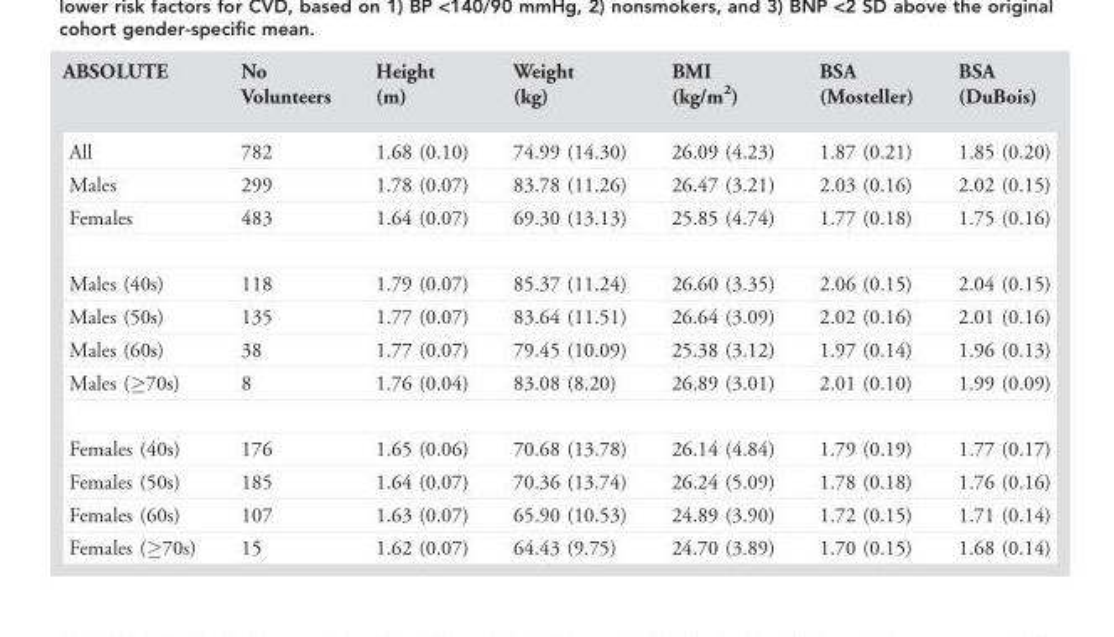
<table><thead><tr><td>ABSOLUTE</td><td>No Volunteers</td><td>Height (m)</td><td>Weight (kg)</td><td>BMI (kg/m<sup>2</sup>)</td><td>BSA (Mosteller)</td><td>BSA (DuBois)</td></tr></thead><tbody><tr><td>All</td><td>782</td><td>1.68 (0.10)</td><td>74.99 (14.30)</td><td>26.09 (4.23)</td><td>1.87 (0.21)</td><td>1.85 (0.20)</td></tr><tr><td>Males</td><td>299</td><td>1.78 (0.07)</td><td>83.78 (11.26)</td><td>26.47 (3.21)</td><td>2.03 (0.16)</td><td>2.02 (0.15)</td></tr><tr><td>Females</td><td>483</td><td>1.64 (0.07)</td><td>69.30 (13.13)</td><td>25.85 (4.74)</td><td>1.77 (0.18)</td><td>1.75 (0.16)</td></tr><tr><td>Males (40s)</td><td>118</td><td>1.79 (0.07)</td><td>85.37 (11.24)</td><td>26.60 (3.35)</td><td>2.06 (0.15)</td><td>2.04 (0.15)</td></tr><tr><td>Males (50s)</td><td>135</td><td>1.77 (0.07)</td><td>83.64 (11.51)</td><td>26.64 (3.09)</td><td>2.02 (0.16)</td><td>2.01 (0.16)</td></tr><tr><td>Males (60s)</td><td>38</td><td>1.77 (0.07)</td><td>79.45 (10.09)</td><td>25.38 (3.12)</td><td>1.97 (0.14)</td><td>1.96 (0.13)</td></tr><tr><td>Males (≥70s)</td><td>8</td><td>1.76 (0.04)</td><td>83.08 (8.20)</td><td>26.89 (3.01)</td><td>2.01 (0.10)</td><td>1.99 (0.09)</td></tr><tr><td>Females (40s)</td><td>176</td><td>1.65 (0.06)</td><td>70.68 (13.78)</td><td>26.14 (4.84)</td><td>1.79 (0.19)</td><td>1.77 (0.17)</td></tr><tr><td>Females (50s)</td><td>185</td><td>1.64 (0.07)</td><td>70.36 (13.74)</td><td>26.24 (5.09)</td><td>1.78 (0.18)</td><td>1.76 (0.16)</td></tr><tr><td>Females (60s)</td><td>107</td><td>1.63 (0.07)</td><td>65.90 (10.53)</td><td>24.89 (3.90)</td><td>1.72 (0.15)</td><td>1.71 (0.14)</td></tr><tr><td>Females (≥70s)</td><td>15</td><td>1.62 (0.07)</td><td>64.43 (9.75)</td><td>24.70 (3.89)</td><td>1.70 (0.15)</td><td>1.68 (0.14)</td></tr></tbody></table>